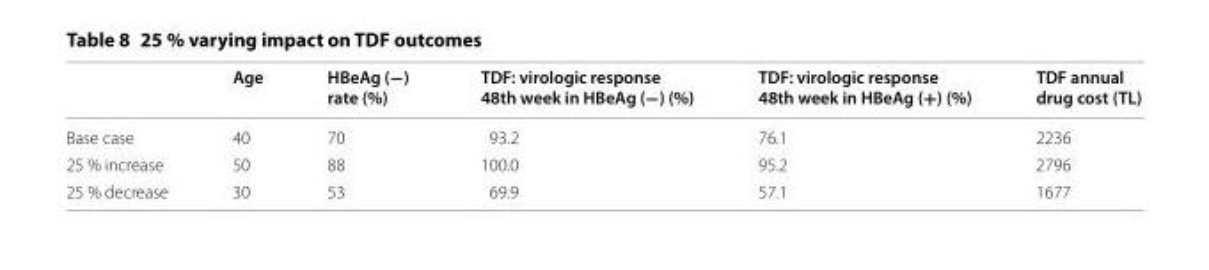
<table><thead><tr><td></td><td>Age</td><td>HBeAg (−) rate (%)</td><td>TDF: virologic response 48th week in HBeAg (−) (%)</td><td>TDF: virologic response 48th week in HBeAg (+) (%)</td><td>TDF annual drug cost (TL)</td></tr></thead><tbody><tr><td>Base case</td><td>40</td><td>70</td><td>93.2</td><td>76.1</td><td>2236</td></tr><tr><td>25 % increase</td><td>50</td><td>88</td><td>100.0</td><td>95.2</td><td>2796</td></tr><tr><td>25 % decrease</td><td>30</td><td>53</td><td>69.9</td><td>57.1</td><td>1677</td></tr></tbody></table>